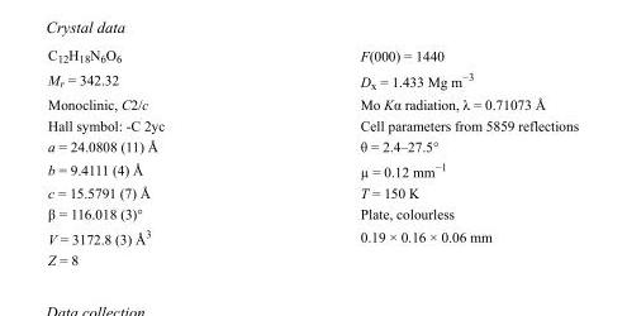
<table><tbody><tr><td>C<sub>12</sub>H<sub>18</sub>N<sub>6</sub>O<sub>6</sub></td><td>F(000) = 1440</td></tr><tr><td>M<sub>r</sub> = 342.32</td><td>D<sub>x</sub> = 1.433 Mg m<sup>−3</sup></td></tr><tr><td>Monoclinic, C2/c</td><td>Mo Kα radiation, λ = 0.71073 Å</td></tr><tr><td>Hall symbol: -C 2yc</td><td>Cell parameters from 5859 reflections</td></tr><tr><td>a = 24.0808 (11) Å</td><td>θ = 2.4–27.5°</td></tr><tr><td>b = 9.4111 (4) Å</td><td>µ = 0.12 mm<sup>−1</sup></td></tr><tr><td>c = 15.5791 (7) Å</td><td>T = 150 K</td></tr><tr><td>β = 116.018 (3)°</td><td>Plate, colourless</td></tr><tr><td>V = 3172.8 (3) Å<sup>3</sup></td><td>0.19 × 0.16 × 0.06 mm</td></tr><tr><td>Z = 8</td><td></td></tr></tbody></table>